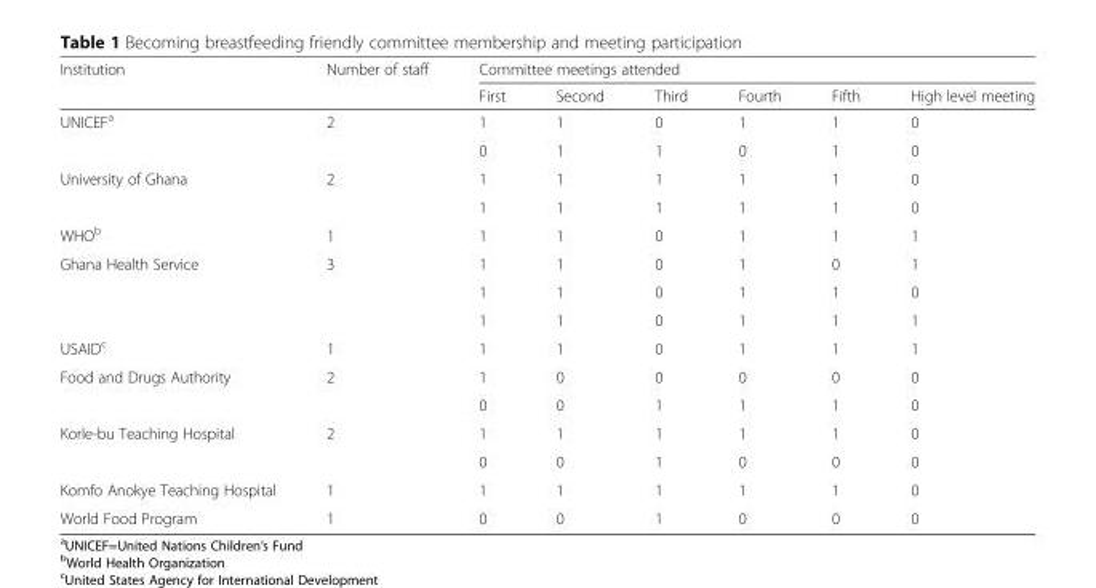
<table><thead><tr><td rowspan="2">Institution</td><td rowspan="2">Number of staff</td><td colspan="6">Committee meetings attended</td></tr><tr><td>First</td><td>Second</td><td>Third</td><td>Fourth</td><td>Fifth</td><td>High level meeting</td></tr></thead><tbody><tr><td rowspan="2">UNICEF<sup>a</sup></td><td rowspan="2">2</td><td>1</td><td>1</td><td>0</td><td>1</td><td>1</td><td>0</td></tr><tr><td>0</td><td>1</td><td>1</td><td>0</td><td>1</td><td>0</td></tr><tr><td rowspan="2">University of Ghana</td><td rowspan="2">2</td><td>1</td><td>1</td><td>1</td><td>1</td><td>1</td><td>0</td></tr><tr><td>1</td><td>1</td><td>1</td><td>1</td><td>1</td><td>0</td></tr><tr><td>WHO<sup>b</sup></td><td>1</td><td>1</td><td>1</td><td>0</td><td>1</td><td>1</td><td>1</td></tr><tr><td rowspan="3">Ghana Health Service</td><td rowspan="3">3</td><td>1</td><td>1</td><td>0</td><td>1</td><td>0</td><td>1</td></tr><tr><td>1</td><td>1</td><td>0</td><td>1</td><td>1</td><td>0</td></tr><tr><td>1</td><td>1</td><td>0</td><td>1</td><td>1</td><td>1</td></tr><tr><td>USAID<sup>c</sup></td><td>1</td><td>1</td><td>1</td><td>0</td><td>1</td><td>1</td><td>1</td></tr><tr><td rowspan="2">Food and Drugs Authority</td><td rowspan="2">2</td><td>1</td><td>0</td><td>0</td><td>0</td><td>0</td><td>0</td></tr><tr><td>0</td><td>0</td><td>1</td><td>1</td><td>1</td><td>0</td></tr><tr><td rowspan="2">Korle-bu Teaching Hospital</td><td rowspan="2">2</td><td>1</td><td>1</td><td>1</td><td>1</td><td>1</td><td>0</td></tr><tr><td>0</td><td>0</td><td>1</td><td>0</td><td>0</td><td>0</td></tr><tr><td>Komfo Anokye Teaching Hospital</td><td>1</td><td>1</td><td>1</td><td>1</td><td>1</td><td>1</td><td>0</td></tr><tr><td>World Food Program</td><td>1</td><td>0</td><td>0</td><td>1</td><td>0</td><td>0</td><td>0</td></tr></tbody></table>